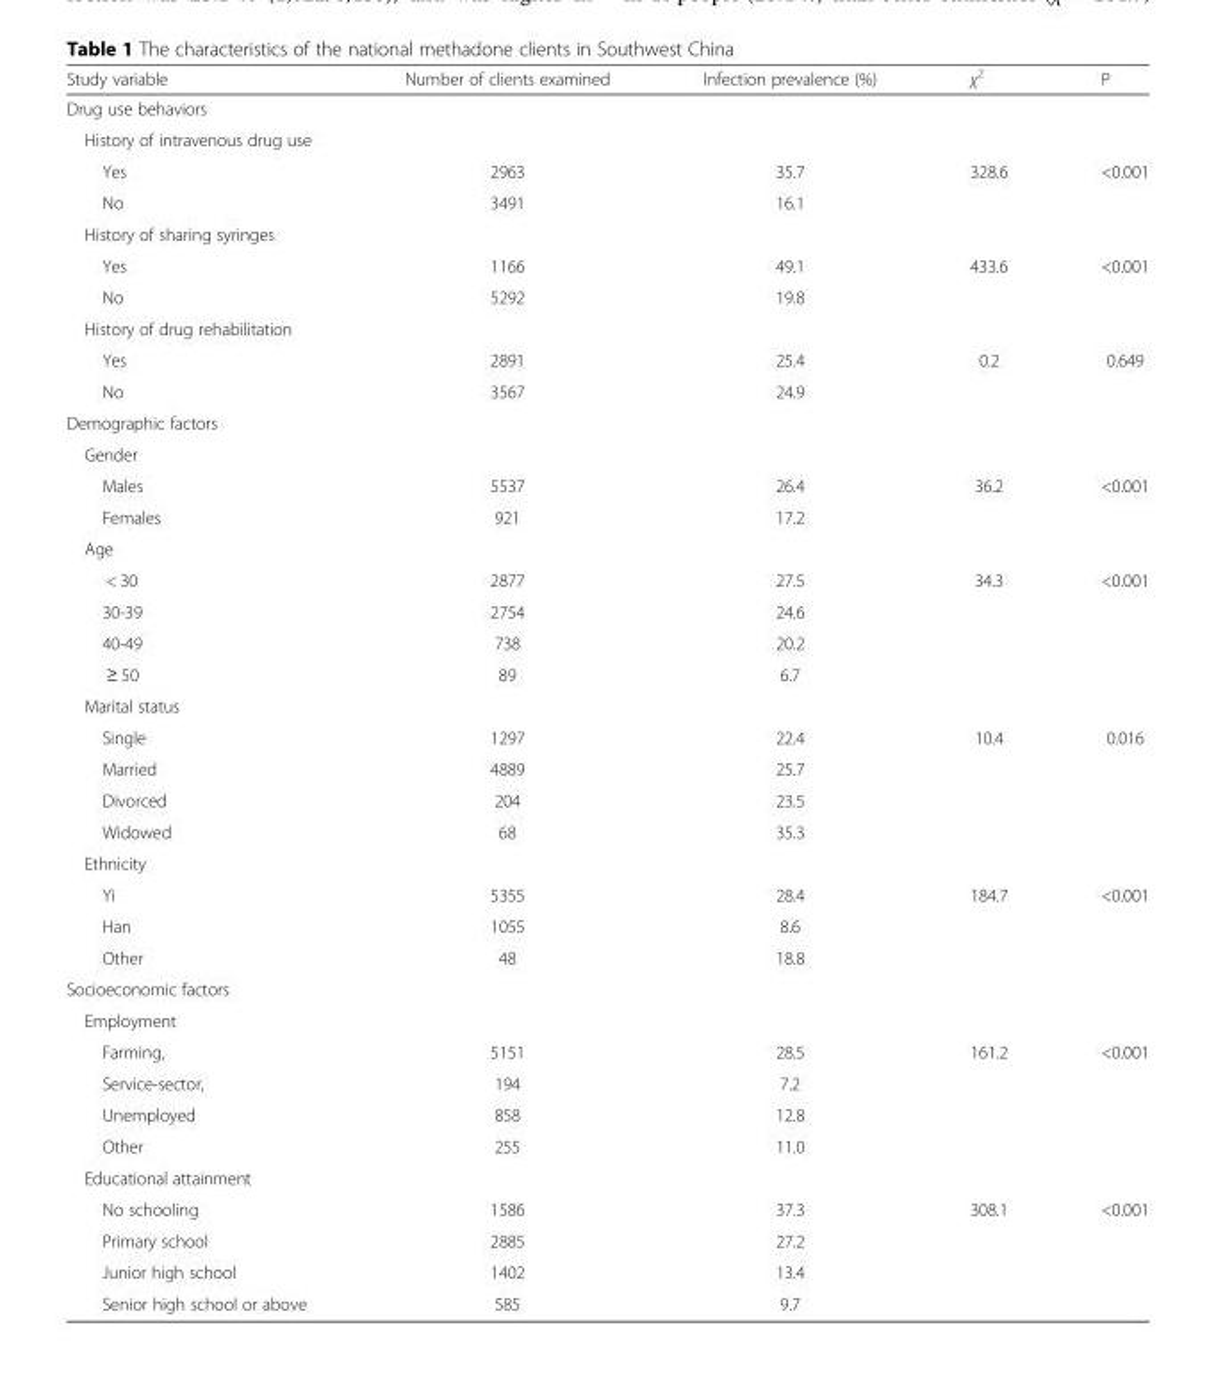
<table><thead><tr><td>Study variable</td><td>Number of clients examined</td><td>Infection prevalence (%)</td><td>χ<sup>2</sup></td><td>P</td></tr></thead><tbody><tr><td colspan="5">Drug use behaviors</td></tr><tr><td colspan="5">History of intravenous drug use</td></tr><tr><td>Yes</td><td>2963</td><td>35.7</td><td>328.6</td><td>&lt;0.001</td></tr><tr><td>No</td><td>3491</td><td>16.1</td><td></td><td></td></tr><tr><td colspan="5">History of sharing syringes</td></tr><tr><td>Yes</td><td>1166</td><td>49.1</td><td>433.6</td><td>&lt;0.001</td></tr><tr><td>No</td><td>5292</td><td>19.8</td><td></td><td></td></tr><tr><td colspan="5">History of drug rehabilitation</td></tr><tr><td>Yes</td><td>2891</td><td>25.4</td><td>0.2</td><td>0.649</td></tr><tr><td>No</td><td>3567</td><td>24.9</td><td></td><td></td></tr><tr><td colspan="5">Demographic factors</td></tr><tr><td colspan="5">Gender</td></tr><tr><td>Males</td><td>5537</td><td>26.4</td><td>36.2</td><td>&lt;0.001</td></tr><tr><td>Females</td><td>921</td><td>17.2</td><td></td><td></td></tr><tr><td colspan="5">Age</td></tr><tr><td>&lt; 30</td><td>2877</td><td>27.5</td><td>34.3</td><td>&lt;0.001</td></tr><tr><td>30-39</td><td>2754</td><td>24.6</td><td></td><td></td></tr><tr><td>40-49</td><td>738</td><td>20.2</td><td></td><td></td></tr><tr><td>≥ 50</td><td>89</td><td>6.7</td><td></td><td></td></tr><tr><td colspan="5">Marital status</td></tr><tr><td>Single</td><td>1297</td><td>22.4</td><td>10.4</td><td>0.016</td></tr><tr><td>Married</td><td>4889</td><td>25.7</td><td></td><td></td></tr><tr><td>Divorced</td><td>204</td><td>23.5</td><td></td><td></td></tr><tr><td>Widowed</td><td>68</td><td>35.3</td><td></td><td></td></tr><tr><td colspan="5">Ethnicity</td></tr><tr><td>Yi</td><td>5355</td><td>28.4</td><td>184.7</td><td>&lt;0.001</td></tr><tr><td>Han</td><td>1055</td><td>8.6</td><td></td><td></td></tr><tr><td>Other</td><td>48</td><td>18.8</td><td></td><td></td></tr><tr><td colspan="5">Socioeconomic factors</td></tr><tr><td colspan="5">Employment</td></tr><tr><td>Farming,</td><td>5151</td><td>28.5</td><td>161.2</td><td>&lt;0.001</td></tr><tr><td>Service-sector,</td><td>194</td><td>7.2</td><td></td><td></td></tr><tr><td>Unemployed</td><td>858</td><td>12.8</td><td></td><td></td></tr><tr><td>Other</td><td>255</td><td>11.0</td><td></td><td></td></tr><tr><td colspan="5">Educational attainment</td></tr><tr><td>No schooling</td><td>1586</td><td>37.3</td><td>308.1</td><td>&lt;0.001</td></tr><tr><td>Primary school</td><td>2885</td><td>27.2</td><td></td><td></td></tr><tr><td>Junior high school</td><td>1402</td><td>13.4</td><td></td><td></td></tr><tr><td>Senior high school or above</td><td>585</td><td>9.7</td><td></td><td></td></tr></tbody></table>